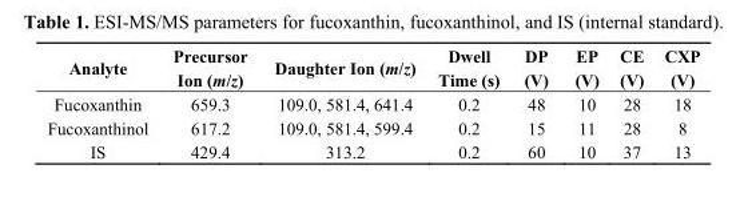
<table><thead><tr><td>Analyte</td><td>Precursor Ion (m/z)</td><td>Daughter Ion (m/z)</td><td>Dwell Time (s)</td><td>DP (V)</td><td>EP (V)</td><td>CE (V)</td><td>CXP (V)</td></tr></thead><tbody><tr><td>Fucoxanthin</td><td>659.3</td><td>109.0, 581.4, 641.4</td><td>0.2</td><td>48</td><td>10</td><td>28</td><td>18</td></tr><tr><td>Fucoxanthinol</td><td>617.2</td><td>109.0, 581.4, 599.4</td><td>0.2</td><td>15</td><td>11</td><td>28</td><td>8</td></tr><tr><td>IS</td><td>429.4</td><td>313.2</td><td>0.2</td><td>60</td><td>10</td><td>37</td><td>13</td></tr></tbody></table>